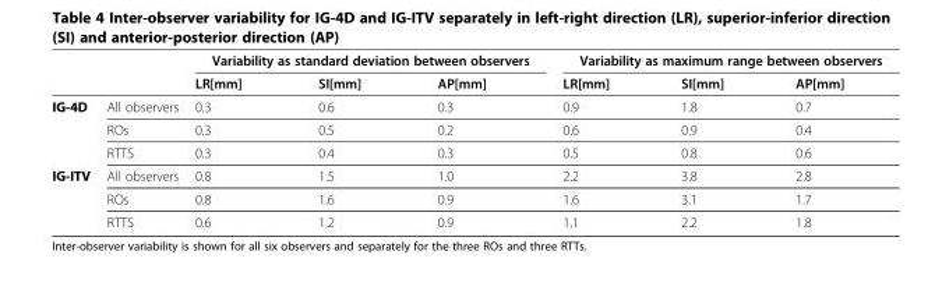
<table><thead><tr><td rowspan="2"></td><td rowspan="2"></td><td colspan="3">Variability as standard deviation between observers</td><td colspan="3">Variability as maximum range between observers</td></tr><tr><td>LR[mm]</td><td>SI[mm]</td><td>AP[mm]</td><td>LR[mm]</td><td>SI[mm]</td><td>AP[mm]</td></tr></thead><tbody><tr><td rowspan="3">IG-4D</td><td>All observers</td><td>0.3</td><td>0.6</td><td>0.3</td><td>0.9</td><td>1.8</td><td>0.7</td></tr><tr><td>ROs</td><td>0.3</td><td>0.5</td><td>0.2</td><td>0.6</td><td>0.9</td><td>0.4</td></tr><tr><td>RTTS</td><td>0.3</td><td>0.4</td><td>0.3</td><td>0.5</td><td>0.8</td><td>0.6</td></tr><tr><td rowspan="3">IG-ITV</td><td>All observers</td><td>0.8</td><td>1.5</td><td>1.0</td><td>2.2</td><td>3.8</td><td>2.8</td></tr><tr><td>ROs</td><td>0.8</td><td>1.6</td><td>0.9</td><td>1.6</td><td>3.1</td><td>1.7</td></tr><tr><td>RTTS</td><td>0.6</td><td>1.2</td><td>0.9</td><td>1.1</td><td>2.2</td><td>1.8</td></tr></tbody></table>